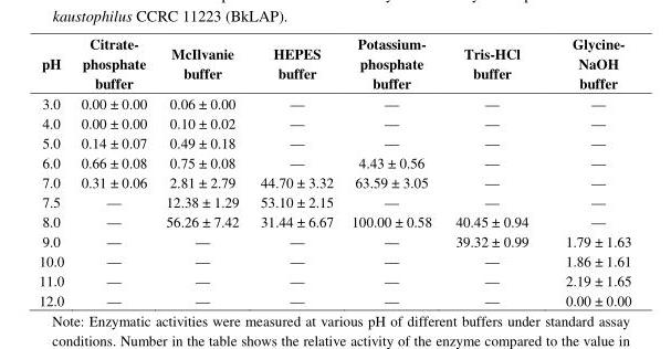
<table><thead><tr><td>pH</td><td>Citrate- phosphate buffer</td><td>McIlvanie buffer</td><td>HEPES buffer</td><td>Potassium- phosphate buffer</td><td>Tris-HCl buffer</td><td>Glycine- NaOH buffer</td></tr></thead><tbody><tr><td>3.0</td><td>0.00 ± 0.00</td><td>0.06 ± 0.00</td><td>—</td><td>—</td><td>—</td><td>—</td></tr><tr><td>4.0</td><td>0.00 ± 0.00</td><td>0.10 ± 0.02</td><td>—</td><td>—</td><td>—</td><td>—</td></tr><tr><td>5.0</td><td>0.14 ± 0.07</td><td>0.49 ± 0.18</td><td>—</td><td>—</td><td>—</td><td>—</td></tr><tr><td>6.0</td><td>0.66 ± 0.08</td><td>0.75 ± 0.08</td><td>—</td><td>4.43 ± 0.56</td><td>—</td><td>—</td></tr><tr><td>7.0</td><td>0.31 ± 0.06</td><td>2.81 ± 2.79</td><td>44.70 ± 3.32</td><td>63.59 ± 3.05</td><td>—</td><td>—</td></tr><tr><td>7.5</td><td>—</td><td>12.38 ± 1.29</td><td>53.10 ± 2.15</td><td>—</td><td>—</td><td>—</td></tr><tr><td>8.0</td><td>—</td><td>56.26 ± 7.42</td><td>31.44 ± 6.67</td><td>100.00 ± 0.58</td><td>40.45 ± 0.94</td><td>—</td></tr><tr><td>9.0</td><td>—</td><td>—</td><td>—</td><td>—</td><td>39.32 ± 0.99</td><td>1.79 ± 1.63</td></tr><tr><td>10.0</td><td>—</td><td>—</td><td>—</td><td>—</td><td>—</td><td>1.86 ± 1.61</td></tr><tr><td>11.0</td><td>—</td><td>—</td><td>—</td><td>—</td><td>—</td><td>2.19 ± 1.65</td></tr><tr><td>12.0</td><td>—</td><td>—</td><td>—</td><td>—</td><td>—</td><td>0.00 ± 0.00</td></tr></tbody></table>